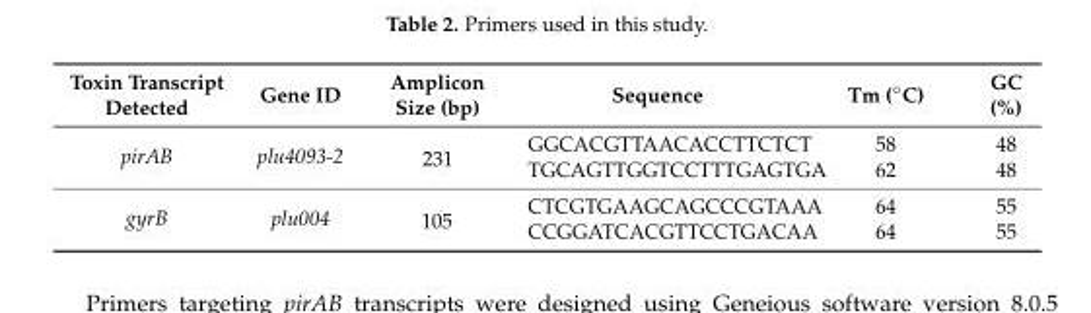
<table><thead><tr><td>Toxin Transcript Detected</td><td>Gene ID</td><td>Amplicon Size (bp)</td><td>Sequence</td><td>Tm (◦C)</td><td>GC (%)</td></tr></thead><tbody><tr><td rowspan="2">pirAB</td><td rowspan="2">plu4093-2</td><td rowspan="2">231</td><td>GGCACGTTAACACCTTCTCT</td><td>58</td><td>48</td></tr><tr><td>TGCAGTTGGTCCTTTGAGTGA</td><td>62</td><td>48</td></tr><tr><td rowspan="2">gyrB</td><td rowspan="2">plu004</td><td rowspan="2">105</td><td>CTCGTGAAGCAGCCCGTAAA</td><td>64</td><td>55</td></tr><tr><td>CCGGATCACGTTCCTGACAA</td><td>64</td><td>55</td></tr></tbody></table>